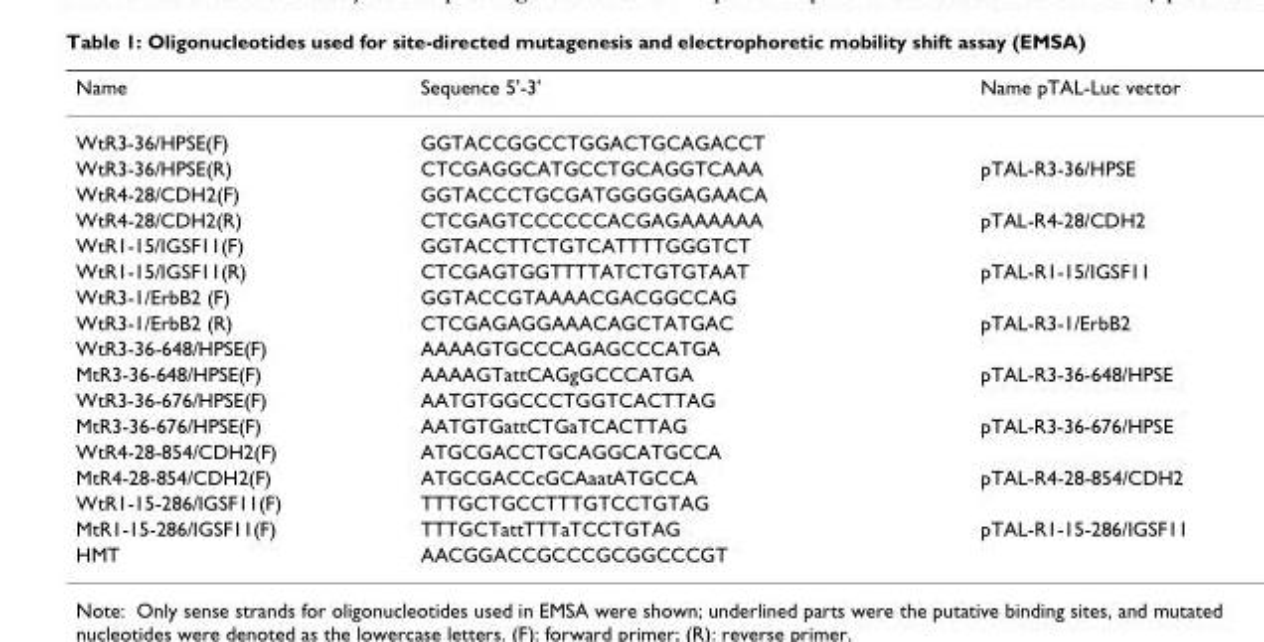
<table><thead><tr><td>Name</td><td>Sequence 5&#x27;-3&#x27;</td><td>Name pTAL-Luc vector</td></tr></thead><tbody><tr><td>WtR3-36/HPSE(F)</td><td>GGTACCGGCCTGGACTGCAGACCT</td><td></td></tr><tr><td>WtR3-36/HPSE(R)</td><td>CTCGAGGCATGCCTGCAGGTCAAA</td><td>pTAL-R3-36/HPSE</td></tr><tr><td>WtR4-28/CDH2(F)</td><td>GGTACCCTGCGATGGGGGAGAACA</td><td></td></tr><tr><td>WtR4-28/CDH2(R)</td><td>CTCGAGTCCCCCCACGAGAAAAAA</td><td>pTAL-R4-28/CDH2</td></tr><tr><td>WtR1-15/IGSF11(F)</td><td>GGTACCTTCTGTCATTTTGGGTCT</td><td></td></tr><tr><td>WtR1-15/IGSF11(R)</td><td>CTCGAGTGGTTTTATCTGTGTAAT</td><td>pTAL-R1-15/IGSF11</td></tr><tr><td>WtR3-1/ErbB2 (F)</td><td>GGTACCGTAAAACGACGGCCAG</td><td></td></tr><tr><td>WtR3-1/ErbB2 (R)</td><td>CTCGAGAGGAAACAGCTATGAC</td><td>pTAL-R3-1/ErbB2</td></tr><tr><td>WtR3-36-648/HPSE(F)</td><td>AAAAGTGCCCAGAGCCCATGA</td><td></td></tr><tr><td>MtR3-36-648/HPSE(F)</td><td>AAAAGTattCAGgGCCCATGA</td><td>pTAL-R3-36-648/HPSE</td></tr><tr><td>WtR3-36-676/HPSE(F)</td><td>AATGTGGCCCTGGTCACTTAG</td><td></td></tr><tr><td>MtR3-36-676/HPSE(F)</td><td>AATGTGattCTGaTCACTTAG</td><td>pTAL-R3-36-676/HPSE</td></tr><tr><td>WtR4-28-854/CDH2(F)</td><td>ATGCGACCTGCAGGCATGCCA</td><td></td></tr><tr><td>MtR4-28-854/CDH2(F)</td><td>ATGCGACCcGCAaatATGCCA</td><td>pTAL-R4-28-854/CDH2</td></tr><tr><td>WtR1-15-286/IGSF11(F)</td><td>TTTGCTGCCTTTGTCCTGTAG</td><td></td></tr><tr><td>MtR1-15-286/IGSF11(F)</td><td>TTTGCTattTTTaTCCTGTAG</td><td>pTAL-R1-15-286/IGSF11</td></tr><tr><td>HMT</td><td>AACGGACCGCCCGCGGCCCGT</td><td></td></tr></tbody></table>